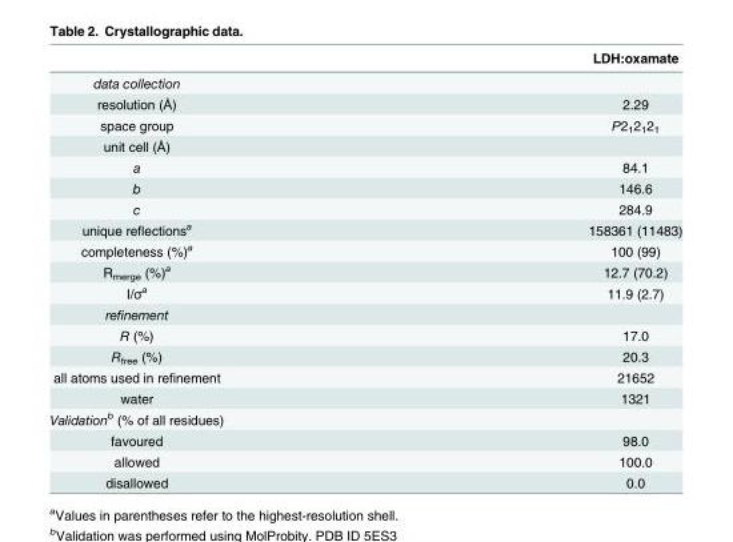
<table><thead><tr><td></td><td>LDH:oxamate</td></tr></thead><tbody><tr><td colspan="2">data collection</td></tr><tr><td>resolution (Å)</td><td>2.29</td></tr><tr><td>space group</td><td>P2<sub>1</sub>2<sub>1</sub>2<sub>1</sub></td></tr><tr><td colspan="2">unit cell (Å)</td></tr><tr><td>a</td><td>84.1</td></tr><tr><td>b</td><td>146.6</td></tr><tr><td>c</td><td>284.9</td></tr><tr><td>unique reflections<sup>a</sup></td><td>158361 (11483)</td></tr><tr><td>completeness (%)<sup>a</sup></td><td>100 (99)</td></tr><tr><td>R<sub>merge</sub> (%)<sup>a</sup></td><td>12.7 (70.2)</td></tr><tr><td>I/σ<sup>a</sup></td><td>11.9 (2.7)</td></tr><tr><td colspan="2">refinement</td></tr><tr><td>R (%)</td><td>17.0</td></tr><tr><td>R<sub>free</sub> (%)</td><td>20.3</td></tr><tr><td>all atoms used in refinement</td><td>21652</td></tr><tr><td>water</td><td>1321</td></tr><tr><td colspan="2">Validation<sup>b</sup> (% of all residues)</td></tr><tr><td>favoured</td><td>98.0</td></tr><tr><td>allowed</td><td>100.0</td></tr><tr><td>disallowed</td><td>0.0</td></tr></tbody></table>